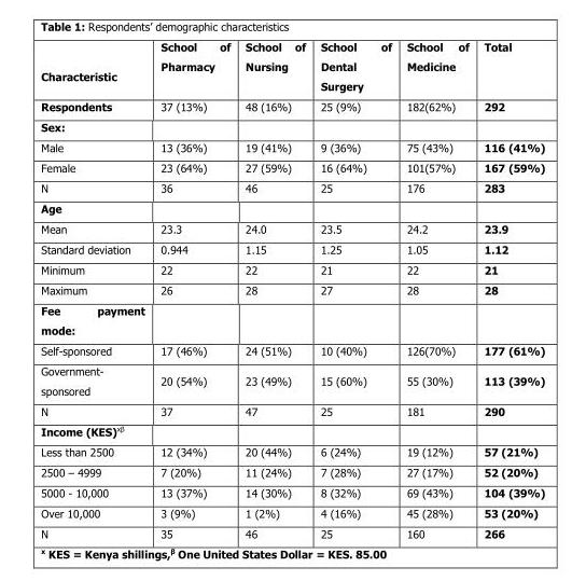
<table><thead><tr><td>Characteristic</td><td>School of Pharmacy</td><td>School of Nursing</td><td>School of Dental Surgery</td><td>School of Medicine</td><td>Total</td></tr></thead><tbody><tr><td>Respondents</td><td>37 (13%)</td><td>48 (16%)</td><td>25 (9%)</td><td>182(62%)</td><td>292</td></tr><tr><td colspan="6">Sex:</td></tr><tr><td>Male</td><td>13 (36%)</td><td>19 (41%)</td><td>9 (36%)</td><td>75 (43%)</td><td>116 (41%)</td></tr><tr><td>Female</td><td>23 (64%)</td><td>27 (59%)</td><td>16 (64%)</td><td>101(57%)</td><td>167 (59%)</td></tr><tr><td>N</td><td>36</td><td>46</td><td>25</td><td>176</td><td>283</td></tr><tr><td colspan="6">Age</td></tr><tr><td>Mean</td><td>23.3</td><td>24.0</td><td>23.5</td><td>24.2</td><td>23.9</td></tr><tr><td>Standard deviation</td><td>0.944</td><td>1.15</td><td>1.25</td><td>1.05</td><td>1.12</td></tr><tr><td>Minimum</td><td>22</td><td>22</td><td>21</td><td>22</td><td>21</td></tr><tr><td>Maximum</td><td>26</td><td>28</td><td>27</td><td>28</td><td>28</td></tr><tr><td colspan="6">Fee payment mode:</td></tr><tr><td>Self-sponsored</td><td>17 (46%)</td><td>24 (51%)</td><td>10 (40%)</td><td>126(70%)</td><td>177 (61%)</td></tr><tr><td>Government- sponsored</td><td>20 (54%)</td><td>23 (49%)</td><td>15 (60%)</td><td>55 (30%)</td><td>113 (39%)</td></tr><tr><td>N</td><td>37</td><td>47</td><td>25</td><td>181</td><td>290</td></tr><tr><td colspan="6">Income (KES)<sup>xβ</sup></td></tr><tr><td>Less than 2500</td><td>12 (34%)</td><td>20 (44%)</td><td>6 (24%)</td><td>19 (12%)</td><td>57 (21%)</td></tr><tr><td>2500 – 4999</td><td>7 (20%)</td><td>11 (24%)</td><td>7 (28%)</td><td>27 (17%)</td><td>52 (20%)</td></tr><tr><td>5000 - 10,000</td><td>13 (37%)</td><td>14 (30%)</td><td>8 (32%)</td><td>69 (43%)</td><td>104 (39%)</td></tr><tr><td>Over 10,000</td><td>3 (9%)</td><td>1 (2%)</td><td>4 (16%)</td><td>45 (28%)</td><td>53 (20%)</td></tr><tr><td>N</td><td>35</td><td>46</td><td>25</td><td>160</td><td>266</td></tr></tbody></table>